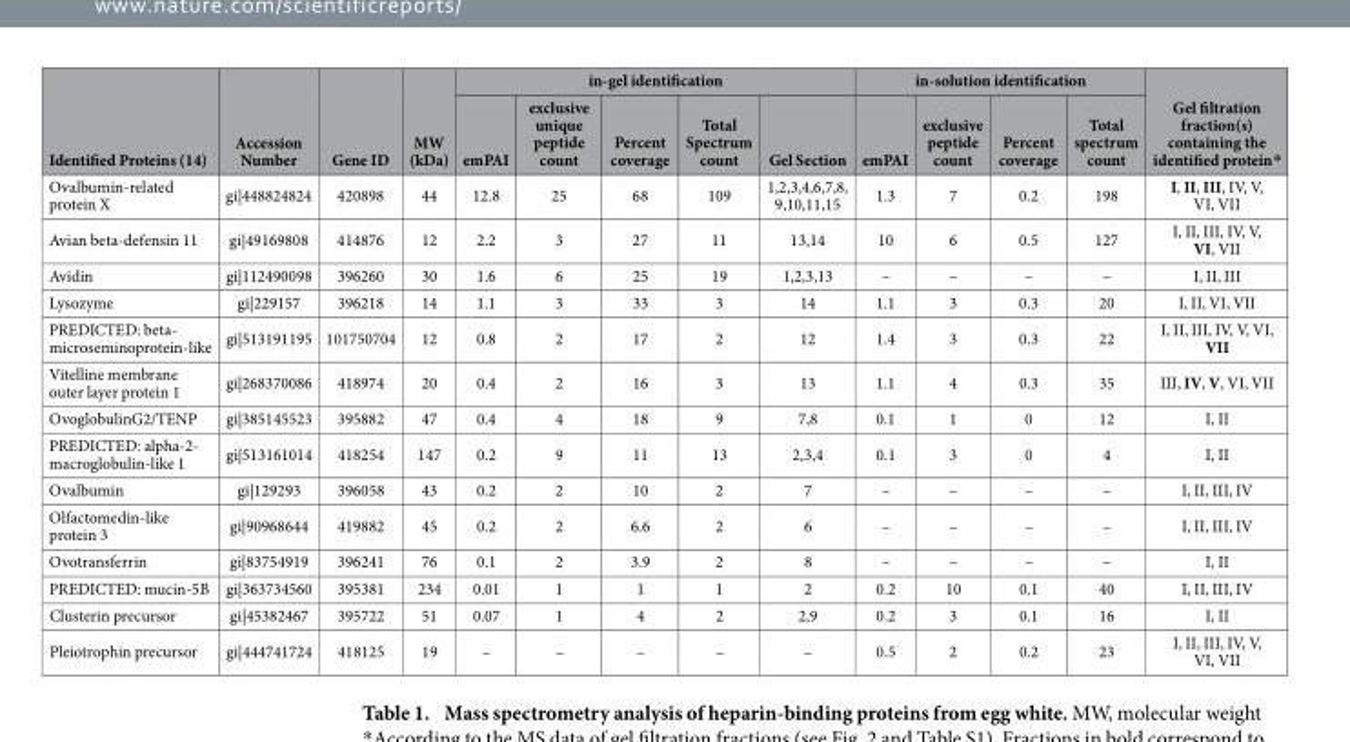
<table><thead><tr><td rowspan="2">Identified Proteins (14)</td><td rowspan="2">Accession Number</td><td rowspan="2">Gene ID</td><td rowspan="2">MW (kDa)</td><td colspan="5">in-gel identification</td><td colspan="4">in-solution identification</td><td rowspan="2">Gel filtration fraction(s) containing the identified protein*</td></tr><tr><td>emPAI</td><td>exclusive unique peptide count</td><td>Percent coverage</td><td>Total Spectrum count</td><td>Gel Section</td><td>emPAI</td><td>exclusive peptide count</td><td>Percent coverage</td><td>Total spectrum count</td></tr></thead><tbody><tr><td>Ovalbumin-related protein X</td><td>gi|448824824</td><td>420898</td><td>44</td><td>12.8</td><td>25</td><td>68</td><td>109</td><td>1,2,3,4,6,7,8, 9,10,11,15</td><td>1.3</td><td>7</td><td>0.2</td><td>198</td><td>I, II, III, IV, V, VI, VII</td></tr><tr><td>Avian beta-defensin 11</td><td>gi|49169808</td><td>414876</td><td>12</td><td>2.2</td><td>3</td><td>27</td><td>11</td><td>13,14</td><td>10</td><td>6</td><td>0.5</td><td>127</td><td>I, II, III, IV, V, VI, VII</td></tr><tr><td>Avidin</td><td>gi|112490098</td><td>396260</td><td>30</td><td>1.6</td><td>6</td><td>25</td><td>19</td><td>1,2,3,13</td><td>–</td><td>–</td><td>–</td><td>–</td><td>I, II, III</td></tr><tr><td>Lysozyme</td><td>gi|229157</td><td>396218</td><td>14</td><td>1.1</td><td>3</td><td>33</td><td>3</td><td>14</td><td>1.1</td><td>3</td><td>0.3</td><td>20</td><td>I, II, VI, VII</td></tr><tr><td>PREDICTED: beta- microseminoprotein-like</td><td>gi|513191195</td><td>101750704</td><td>12</td><td>0.8</td><td>2</td><td>17</td><td>2</td><td>12</td><td>1.4</td><td>3</td><td>0.3</td><td>22</td><td>I, II, III, IV, V, VI, VII</td></tr><tr><td>Vitelline membrane outer layer protein 1</td><td>gi|268370086</td><td>418974</td><td>20</td><td>0.4</td><td>2</td><td>16</td><td>3</td><td>13</td><td>1.1</td><td>4</td><td>0.3</td><td>35</td><td>III, IV, V, VI, VII</td></tr><tr><td>OvoglobulinG2/TENP</td><td>gi|385145523</td><td>395882</td><td>47</td><td>0.4</td><td>4</td><td>18</td><td>9</td><td>7,8</td><td>0.1</td><td>1</td><td>0</td><td>12</td><td>I, II</td></tr><tr><td>PREDICTED: alpha-2- macroglobulin-like 1</td><td>gi|513161014</td><td>418254</td><td>147</td><td>0.2</td><td>9</td><td>11</td><td>13</td><td>2,3,4</td><td>0.1</td><td>3</td><td>0</td><td>4</td><td>I, II</td></tr><tr><td>Ovalbumin</td><td>gi|129293</td><td>396058</td><td>43</td><td>0.2</td><td>2</td><td>10</td><td>2</td><td>7</td><td>–</td><td>–</td><td>–</td><td>–</td><td>I, II, III, IV</td></tr><tr><td>Olfactomedin-like protein 3</td><td>gi|90968644</td><td>419882</td><td>45</td><td>0.2</td><td>2</td><td>6.6</td><td>2</td><td>6</td><td>–</td><td>–</td><td>–</td><td>–</td><td>I, II, III, IV</td></tr><tr><td>Ovotransferrin</td><td>gi|83754919</td><td>396241</td><td>76</td><td>0.1</td><td>2</td><td>3.9</td><td>2</td><td>8</td><td>–</td><td>–</td><td>–</td><td>–</td><td>I, II</td></tr><tr><td>PREDICTED: mucin-5B</td><td>gi|363734560</td><td>395381</td><td>234</td><td>0.01</td><td>1</td><td>1</td><td>1</td><td>2</td><td>0.2</td><td>10</td><td>0.1</td><td>40</td><td>I, II, III, IV</td></tr><tr><td>Clusterin precursor</td><td>gi|45382467</td><td>395722</td><td>51</td><td>0.07</td><td>1</td><td>4</td><td>2</td><td>2,9</td><td>0.2</td><td>3</td><td>0.1</td><td>16</td><td>I, II</td></tr><tr><td>Pleiotrophin precursor</td><td>gi|444741724</td><td>418125</td><td>19</td><td>–</td><td>–</td><td>–</td><td>–</td><td>–</td><td>0.5</td><td>2</td><td>0.2</td><td>23</td><td>I, II, III, IV, V, VI, VII</td></tr></tbody></table>